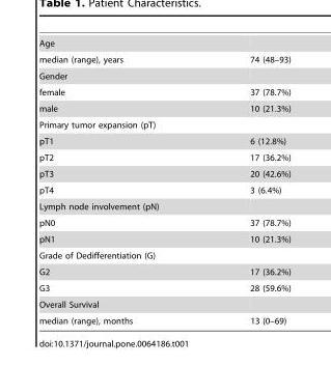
<table><tbody><tr><td colspan="2">Age</td></tr><tr><td>median (range), years</td><td>74 (48–93)</td></tr><tr><td colspan="2">Gender</td></tr><tr><td>female</td><td>37 (78.7%)</td></tr><tr><td>male</td><td>10 (21.3%)</td></tr><tr><td colspan="2">Primary tumor expansion (pT)</td></tr><tr><td>pT1</td><td>6 (12.8%)</td></tr><tr><td>pT2</td><td>17 (36.2%)</td></tr><tr><td>pT3</td><td>20 (42.6%)</td></tr><tr><td>pT4</td><td>3 (6.4%)</td></tr><tr><td colspan="2">Lymph node involvement (pN)</td></tr><tr><td>pN0</td><td>37 (78.7%)</td></tr><tr><td>pN1</td><td>10 (21.3%)</td></tr><tr><td colspan="2">Grade of Dedifferentiation (G)</td></tr><tr><td>G2</td><td>17 (36.2%)</td></tr><tr><td>G3</td><td>28 (59.6%)</td></tr><tr><td colspan="2">Overall Survival</td></tr><tr><td>median (range), months</td><td>13 (0–69)</td></tr></tbody></table>